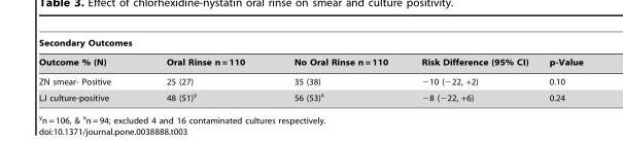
<table><thead><tr><td colspan="5">Secondary Outcomes</td></tr><tr><td>Outcome % (N)</td><td>Oral Rinse n = 110</td><td>No Oral Rinse n = 110</td><td>Risk Difference (95% CI)</td><td>p-Value</td></tr></thead><tbody><tr><td>ZN smear- Positive</td><td>25 (27)</td><td>35 (38)</td><td>−10 (−22, +2)</td><td>0.10</td></tr><tr><td>LJ culture-positive</td><td>48 (51)<sup>y</sup></td><td>56 (53)<sup>x</sup></td><td>−8 (−22, +6)</td><td>0.24</td></tr></tbody></table>